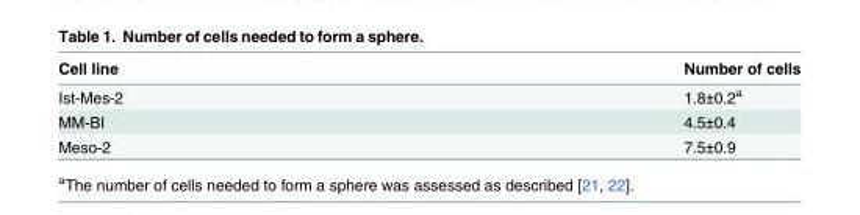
<table><thead><tr><td>Cell line</td><td>Number of cells</td></tr></thead><tbody><tr><td>Ist-Mes-2</td><td>1.8±0.2<sup>a</sup></td></tr><tr><td>MM-BI</td><td>4.5±0.4</td></tr><tr><td>Meso-2</td><td>7.5±0.9</td></tr></tbody></table>